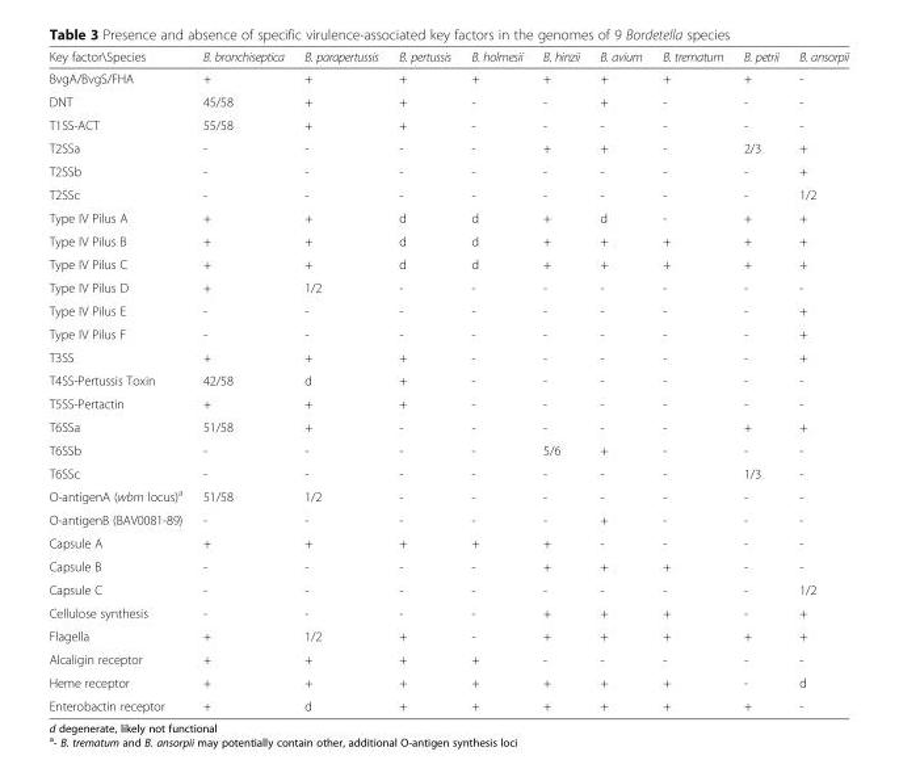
<table><thead><tr><td>Key factor\Species</td><td>B. bronchiseptica</td><td>B. parapertussis</td><td>B. pertussis</td><td>B. holmesii</td><td>B. hinzii</td><td>B. avium</td><td>B. trematum</td><td>B. petrii</td><td>B. ansorpii</td></tr></thead><tbody><tr><td>BvgA/BvgS/FHA</td><td>+</td><td>+</td><td>+</td><td>+</td><td>+</td><td>+</td><td>+</td><td>+</td><td>-</td></tr><tr><td>DNT</td><td>45/58</td><td>+</td><td>+</td><td>-</td><td>-</td><td>+</td><td>-</td><td>-</td><td>-</td></tr><tr><td>T1SS-ACT</td><td>55/58</td><td>+</td><td>+</td><td>-</td><td>-</td><td>-</td><td>-</td><td>-</td><td>-</td></tr><tr><td>T2SSa</td><td>-</td><td>-</td><td>-</td><td>-</td><td>+</td><td>+</td><td>-</td><td>2/3</td><td>+</td></tr><tr><td>T2SSb</td><td>-</td><td>-</td><td>-</td><td>-</td><td>-</td><td>-</td><td>-</td><td>-</td><td>+</td></tr><tr><td>T2SSc</td><td>-</td><td>-</td><td>-</td><td>-</td><td>-</td><td>-</td><td>-</td><td>-</td><td>1/2</td></tr><tr><td>Type IV Pilus A</td><td>+</td><td>+</td><td>d</td><td>d</td><td>+</td><td>d</td><td>-</td><td>+</td><td>+</td></tr><tr><td>Type IV Pilus B</td><td>+</td><td>+</td><td>d</td><td>d</td><td>+</td><td>+</td><td>+</td><td>+</td><td>+</td></tr><tr><td>Type IV Pilus C</td><td>+</td><td>+</td><td>d</td><td>d</td><td>+</td><td>+</td><td>+</td><td>+</td><td>+</td></tr><tr><td>Type IV Pilus D</td><td>+</td><td>1/2</td><td>-</td><td>-</td><td>-</td><td>-</td><td>-</td><td>-</td><td>-</td></tr><tr><td>Type IV Pilus E</td><td>-</td><td>-</td><td>-</td><td>-</td><td>-</td><td>-</td><td>-</td><td>-</td><td>+</td></tr><tr><td>Type IV Pilus F</td><td>-</td><td>-</td><td>-</td><td>-</td><td>-</td><td>-</td><td>-</td><td>-</td><td>+</td></tr><tr><td>T3SS</td><td>+</td><td>+</td><td>+</td><td>-</td><td>-</td><td>-</td><td>-</td><td>-</td><td>+</td></tr><tr><td>T4SS-Pertussis Toxin</td><td>42/58</td><td>d</td><td>+</td><td>-</td><td>-</td><td>-</td><td>-</td><td>-</td><td>-</td></tr><tr><td>T5SS-Pertactin</td><td>+</td><td>+</td><td>+</td><td>-</td><td>-</td><td>-</td><td>-</td><td>-</td><td>-</td></tr><tr><td>T6SSa</td><td>51/58</td><td>+</td><td>-</td><td>-</td><td>-</td><td>-</td><td>-</td><td>+</td><td>+</td></tr><tr><td>T6SSb</td><td>-</td><td>-</td><td>-</td><td>-</td><td>5/6</td><td>+</td><td>-</td><td>-</td><td>-</td></tr><tr><td>T6SSc</td><td>-</td><td>-</td><td>-</td><td>-</td><td>-</td><td>-</td><td>-</td><td>1/3</td><td>-</td></tr><tr><td>O-antigenA (wbm locus)<sup>a</sup></td><td>51/58</td><td>1/2</td><td>-</td><td>-</td><td>-</td><td>-</td><td>-</td><td>-</td><td>-</td></tr><tr><td>O-antigenB (BAV0081-89)</td><td>-</td><td>-</td><td>-</td><td>-</td><td>-</td><td>+</td><td>-</td><td>-</td><td>-</td></tr><tr><td>Capsule A</td><td>+</td><td>+</td><td>+</td><td>+</td><td>+</td><td>-</td><td>-</td><td>-</td><td>-</td></tr><tr><td>Capsule B</td><td>-</td><td>-</td><td>-</td><td>-</td><td>+</td><td>+</td><td>+</td><td>-</td><td>-</td></tr><tr><td>Capsule C</td><td>-</td><td>-</td><td>-</td><td>-</td><td>-</td><td>-</td><td>-</td><td>-</td><td>1/2</td></tr><tr><td>Cellulose synthesis</td><td>-</td><td>-</td><td>-</td><td>-</td><td>+</td><td>+</td><td>+</td><td>-</td><td>+</td></tr><tr><td>Flagella</td><td>+</td><td>1/2</td><td>+</td><td>-</td><td>+</td><td>+</td><td>+</td><td>+</td><td>+</td></tr><tr><td>Alcaligin receptor</td><td>+</td><td>+</td><td>+</td><td>+</td><td>-</td><td>-</td><td>-</td><td>-</td><td>-</td></tr><tr><td>Heme receptor</td><td>+</td><td>+</td><td>+</td><td>+</td><td>+</td><td>+</td><td>+</td><td>-</td><td>d</td></tr><tr><td>Enterobactin receptor</td><td>+</td><td>d</td><td>+</td><td>+</td><td>+</td><td>+</td><td>+</td><td>+</td><td>-</td></tr></tbody></table>